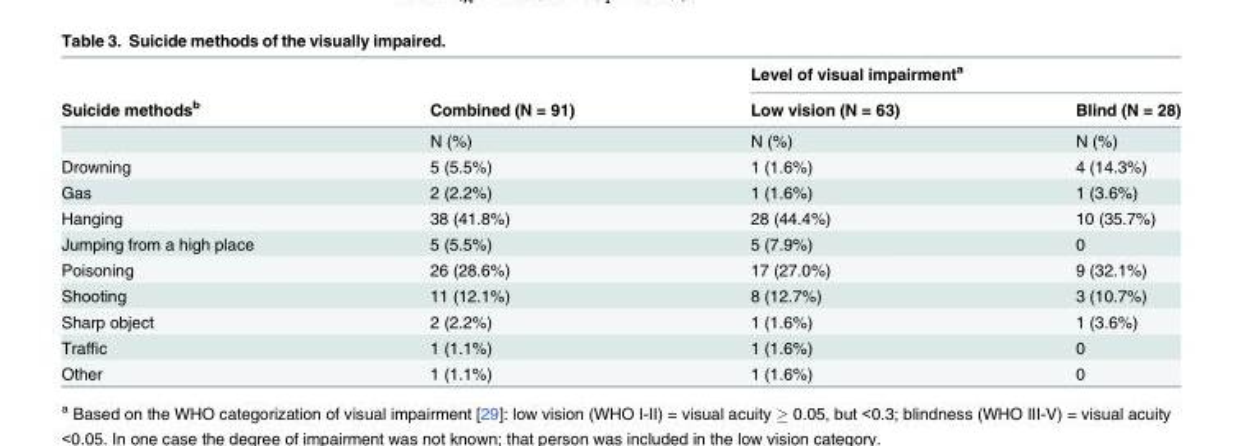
<table><thead><tr><td rowspan="2">Suicide methods<sup>b</sup></td><td rowspan="2">Combined (N = 91)</td><td colspan="2">Level of visual impairment<sup>a</sup></td></tr><tr><td>Low vision (N = 63)</td><td>Blind (N = 28)</td></tr></thead><tbody><tr><td></td><td>N (%)</td><td>N (%)</td><td>N (%)</td></tr><tr><td>Drowning</td><td>5 (5.5%)</td><td>1 (1.6%)</td><td>4 (14.3%)</td></tr><tr><td>Gas</td><td>2 (2.2%)</td><td>1 (1.6%)</td><td>1 (3.6%)</td></tr><tr><td>Hanging</td><td>38 (41.8%)</td><td>28 (44.4%)</td><td>10 (35.7%)</td></tr><tr><td>Jumping from a high place</td><td>5 (5.5%)</td><td>5 (7.9%)</td><td>0</td></tr><tr><td>Poisoning</td><td>26 (28.6%)</td><td>17 (27.0%)</td><td>9 (32.1%)</td></tr><tr><td>Shooting</td><td>11 (12.1%)</td><td>8 (12.7%)</td><td>3 (10.7%)</td></tr><tr><td>Sharp object</td><td>2 (2.2%)</td><td>1 (1.6%)</td><td>1 (3.6%)</td></tr><tr><td>Traffic</td><td>1 (1.1%)</td><td>1 (1.6%)</td><td>0</td></tr><tr><td>Other</td><td>1 (1.1%)</td><td>1 (1.6%)</td><td>0</td></tr></tbody></table>